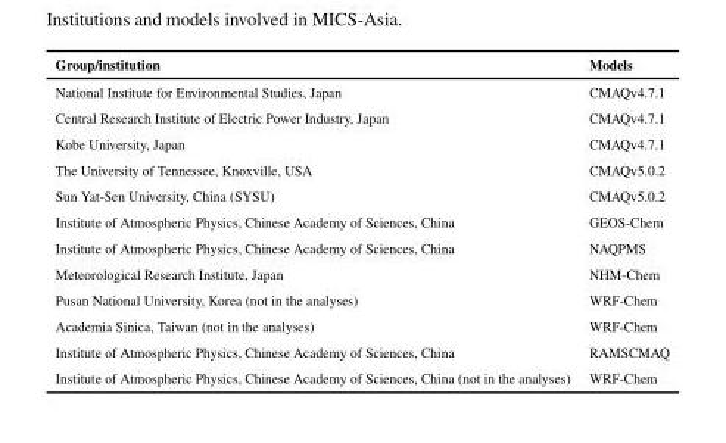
<table><thead><tr><td>Group/institution</td><td>Models</td></tr></thead><tbody><tr><td>National Institute for Environmental Studies, Japan</td><td>CMAQv4.7.1</td></tr><tr><td>Central Research Institute of Electric Power Industry, Japan</td><td>CMAQv4.7.1</td></tr><tr><td>Kobe University, Japan</td><td>CMAQv4.7.1</td></tr><tr><td>The University of Tennessee, Knoxville, USA</td><td>CMAQv5.0.2</td></tr><tr><td>Sun Yat-Sen University, China (SYSU)</td><td>CMAQv5.0.2</td></tr><tr><td>Institute of Atmospheric Physics, Chinese Academy of Sciences, China</td><td>GEOS-Chem</td></tr><tr><td>Institute of Atmospheric Physics, Chinese Academy of Sciences, China</td><td>NAQPMS</td></tr><tr><td>Meteorological Research Institute, Japan</td><td>NHM-Chem</td></tr><tr><td>Pusan National University, Korea (not in the analyses)</td><td>WRF-Chem</td></tr><tr><td>Academia Sinica, Taiwan (not in the analyses)</td><td>WRF-Chem</td></tr><tr><td>Institute of Atmospheric Physics, Chinese Academy of Sciences, China</td><td>RAMSCMAQ</td></tr><tr><td>Institute of Atmospheric Physics, Chinese Academy of Sciences, China (not in the analyses)</td><td>WRF-Chem</td></tr></tbody></table>